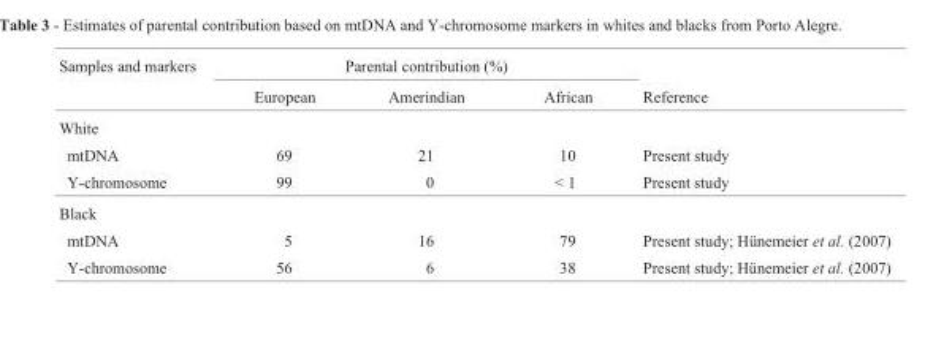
<table><thead><tr><td rowspan="2">Samples and markers</td><td colspan="3">Parental contribution (%)</td><td rowspan="2">Reference</td></tr><tr><td>European</td><td>Amerindian</td><td>African</td></tr></thead><tbody><tr><td colspan="5">White</td></tr><tr><td>mtDNA</td><td>69</td><td>21</td><td>10</td><td>Present study</td></tr><tr><td>Y-chromosome</td><td>99</td><td>0</td><td>&lt; 1</td><td>Present study</td></tr><tr><td colspan="5">Black</td></tr><tr><td>mtDNA</td><td>5</td><td>16</td><td>79</td><td>Present study; Hünemeier et al. (2007)</td></tr><tr><td>Y-chromosome</td><td>56</td><td>6</td><td>38</td><td>Present study; Hünemeier et al. (2007)</td></tr></tbody></table>